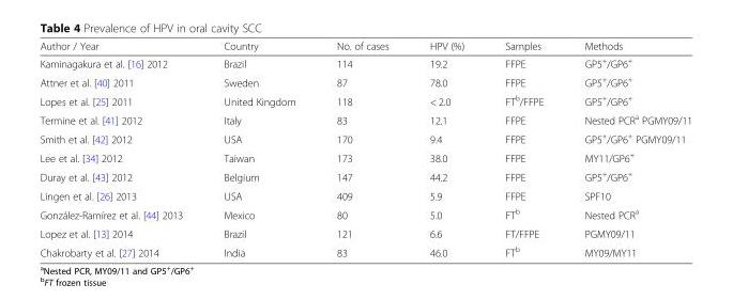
<table><thead><tr><td>Author / Year</td><td>Country</td><td>No. of cases</td><td>HPV (%)</td><td>Samples</td><td>Methods</td></tr></thead><tbody><tr><td>Kaminagakura et al. [16] 2012</td><td>Brazil</td><td>114</td><td>19.2</td><td>FFPE</td><td>GP5<sup>+</sup>/GP6<sup>+</sup></td></tr><tr><td>Attner et al. [40] 2011</td><td>Sweden</td><td>87</td><td>78.0</td><td>FFPE</td><td>GP5<sup>+</sup>/GP6<sup>+</sup></td></tr><tr><td>Lopes et al. [25] 2011</td><td>United Kingdom</td><td>118</td><td>&lt; 2.0</td><td>FT<sup>b</sup>/FFPE</td><td>GP5<sup>+</sup>/GP6<sup>+</sup></td></tr><tr><td>Termine et al. [41] 2012</td><td>Italy</td><td>83</td><td>12.1</td><td>FFPE</td><td>Nested PCR<sup>a</sup> PGMY09/11</td></tr><tr><td>Smith et al. [42] 2012</td><td>USA</td><td>170</td><td>9.4</td><td>FFPE</td><td>GP5<sup>+</sup>/GP6<sup>+</sup> PGMY09/11</td></tr><tr><td>Lee et al. [34] 2012</td><td>Taiwan</td><td>173</td><td>38.0</td><td>FFPE</td><td>MY11/GP6<sup>+</sup></td></tr><tr><td>Duray et al. [43] 2012</td><td>Belgium</td><td>147</td><td>44.2</td><td>FFPE</td><td>GP5<sup>+</sup>/GP6<sup>+</sup></td></tr><tr><td>Lingen et al. [26] 2013</td><td>USA</td><td>409</td><td>5.9</td><td>FFPE</td><td>SPF10</td></tr><tr><td>González-Ramírez et al. [44] 2013</td><td>Mexico</td><td>80</td><td>5.0</td><td>FT<sup>b</sup></td><td>Nested PCR<sup>a</sup></td></tr><tr><td>Lopez et al. [13] 2014</td><td>Brazil</td><td>121</td><td>6.6</td><td>FT/FFPE</td><td>PGMY09/11</td></tr><tr><td>Chakrobarty et al. [27] 2014</td><td>India</td><td>83</td><td>46.0</td><td>FT<sup>b</sup></td><td>MY09/MY11</td></tr></tbody></table>